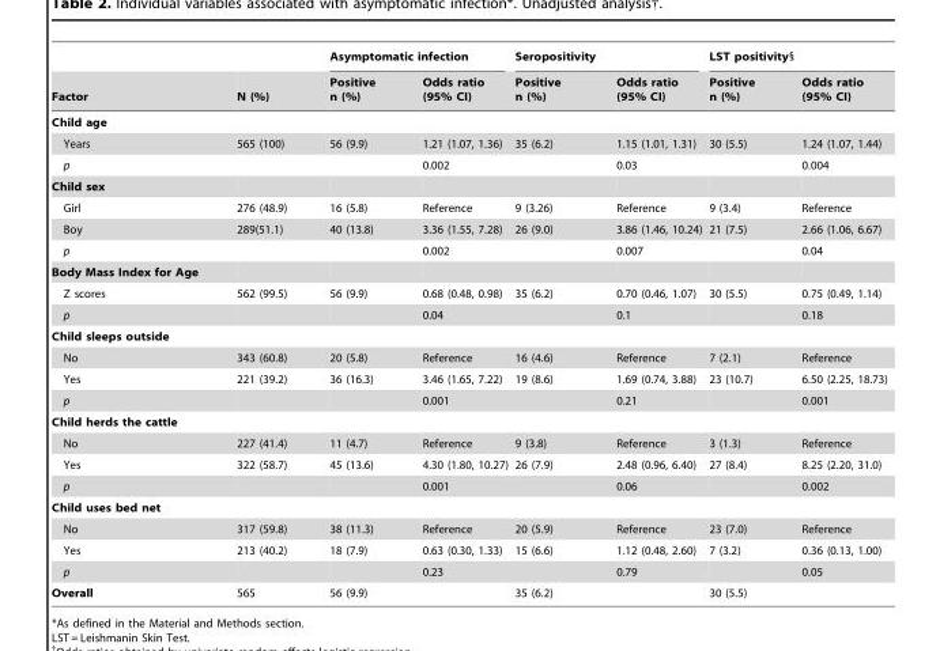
<table><thead><tr><td rowspan="2">Factor</td><td rowspan="2">N (%)</td><td colspan="2">Asymptomatic infection</td><td colspan="2">Seropositivity</td><td colspan="2">LST positivity§</td></tr><tr><td>Positive n (%)</td><td>Odds ratio (95% CI)</td><td>Positive n (%)</td><td>Odds ratio (95% CI)</td><td>Positive n (%)</td><td>Odds ratio (95% CI)</td></tr></thead><tbody><tr><td colspan="8">Child age</td></tr><tr><td>Years</td><td>565 (100)</td><td>56 (9.9)</td><td>1.21 (1.07, 1.36)</td><td>35 (6.2)</td><td>1.15 (1.01, 1.31)</td><td>30 (5.5)</td><td>1.24 (1.07, 1.44)</td></tr><tr><td>p</td><td></td><td></td><td>0.002</td><td></td><td>0.03</td><td></td><td>0.004</td></tr><tr><td colspan="8">Child sex</td></tr><tr><td>Girl</td><td>276 (48.9)</td><td>16 (5.8)</td><td>Reference</td><td>9 (3.26)</td><td>Reference</td><td>9 (3.4)</td><td>Reference</td></tr><tr><td>Boy</td><td>289(51.1)</td><td>40 (13.8)</td><td>3.36 (1.55, 7.28)</td><td>26 (9.0)</td><td>3.86 (1.46, 10.24)</td><td>21 (7.5)</td><td>2.66 (1.06, 6.67)</td></tr><tr><td>p</td><td></td><td></td><td>0.002</td><td></td><td>0.007</td><td></td><td>0.04</td></tr><tr><td colspan="8">Body Mass Index for Age</td></tr><tr><td>Z scores</td><td>562 (99.5)</td><td>56 (9.9)</td><td>0.68 (0.48, 0.98)</td><td>35 (6.2)</td><td>0.70 (0.46, 1.07)</td><td>30 (5.5)</td><td>0.75 (0.49, 1.14)</td></tr><tr><td>p</td><td></td><td></td><td>0.04</td><td></td><td>0.1</td><td></td><td>0.18</td></tr><tr><td colspan="8">Child sleeps outside</td></tr><tr><td>No</td><td>343 (60.8)</td><td>20 (5.8)</td><td>Reference</td><td>16 (4.6)</td><td>Reference</td><td>7 (2.1)</td><td>Reference</td></tr><tr><td>Yes</td><td>221 (39.2)</td><td>36 (16.3)</td><td>3.46 (1.65, 7.22)</td><td>19 (8.6)</td><td>1.69 (0.74, 3.88)</td><td>23 (10.7)</td><td>6.50 (2.25, 18.73)</td></tr><tr><td>p</td><td></td><td></td><td>0.001</td><td></td><td>0.21</td><td></td><td>0.001</td></tr><tr><td colspan="8">Child herds the cattle</td></tr><tr><td>No</td><td>227 (41.4)</td><td>11 (4.7)</td><td>Reference</td><td>9 (3.8)</td><td>Reference</td><td>3 (1.3)</td><td>Reference</td></tr><tr><td>Yes</td><td>322 (58.7)</td><td>45 (13.6)</td><td>4.30 (1.80, 10.27)</td><td>26 (7.9)</td><td>2.48 (0.96, 6.40)</td><td>27 (8.4)</td><td>8.25 (2.20, 31.0)</td></tr><tr><td>p</td><td></td><td></td><td>0.001</td><td></td><td>0.06</td><td></td><td>0.002</td></tr><tr><td colspan="8">Child uses bed net</td></tr><tr><td>No</td><td>317 (59.8)</td><td>38 (11.3)</td><td>Reference</td><td>20 (5.9)</td><td>Reference</td><td>23 (7.0)</td><td>Reference</td></tr><tr><td>Yes</td><td>213 (40.2)</td><td>18 (7.9)</td><td>0.63 (0.30, 1.33)</td><td>15 (6.6)</td><td>1.12 (0.48, 2.60)</td><td>7 (3.2)</td><td>0.36 (0.13, 1.00)</td></tr><tr><td>p</td><td></td><td></td><td>0.23</td><td></td><td>0.79</td><td></td><td>0.05</td></tr><tr><td>Overall</td><td>565</td><td>56 (9.9)</td><td></td><td>35 (6.2)</td><td></td><td>30 (5.5)</td><td></td></tr></tbody></table>